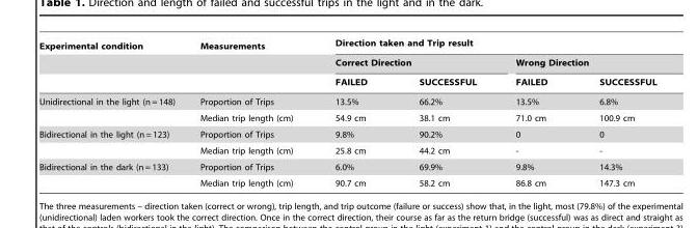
<table><thead><tr><td rowspan="3">Experimental condition</td><td rowspan="3">Measurements</td><td colspan="4">Direction taken and Trip result</td></tr><tr><td colspan="2">Correct Direction</td><td colspan="2">Wrong Direction</td></tr><tr><td>FAILED</td><td>SUCCESSFUL</td><td>FAILED</td><td>SUCCESSFUL</td></tr></thead><tbody><tr><td rowspan="2">Unidirectional in the light (n = 148)</td><td>Proportion of Trips</td><td>13.5%</td><td>66.2%</td><td>13.5%</td><td>6.8%</td></tr><tr><td>Median trip length (cm)</td><td>54.9 cm</td><td>38.1 cm</td><td>71.0 cm</td><td>100.9 cm</td></tr><tr><td rowspan="2">Bidirectional in the light (n = 123)</td><td>Proportion of Trips</td><td>9.8%</td><td>90.2%</td><td>0</td><td>0</td></tr><tr><td>Median trip length (cm)</td><td>25.8 cm</td><td>44.2 cm</td><td>-</td><td>-</td></tr><tr><td rowspan="2">Bidirectional in the dark (n = 133)</td><td>Proportion of Trips</td><td>6.0%</td><td>69.9%</td><td>9.8%</td><td>14.3%</td></tr><tr><td>Median trip length (cm)</td><td>90.7 cm</td><td>58.2 cm</td><td>86.8 cm</td><td>147.3 cm</td></tr></tbody></table>